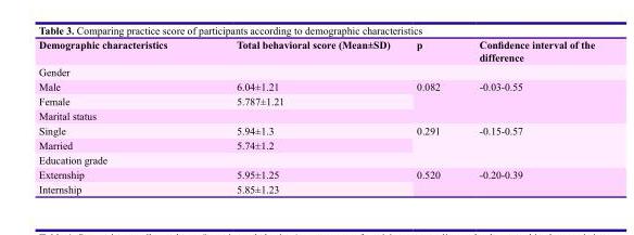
<table><thead><tr><td>Demographic characteristics</td><td>Total behavioral score (Mean±SD)</td><td>p</td><td>Confidence interval of the difference</td></tr></thead><tbody><tr><td colspan="4">Gender</td></tr><tr><td>Male</td><td>6.04±1.21</td><td rowspan="2">0.082</td><td rowspan="2">-0.03-0.55</td></tr><tr><td>Female</td><td>5.787±1.21</td></tr><tr><td colspan="4">Marital status</td></tr><tr><td>Single</td><td>5.94±1.3</td><td rowspan="2">0.291</td><td rowspan="2">-0.15-0.57</td></tr><tr><td>Married</td><td>5.74±1.2</td></tr><tr><td colspan="4">Education grade</td></tr><tr><td>Externship</td><td>5.95±1.25</td><td rowspan="2">0.520</td><td rowspan="2">-0.20-0.39</td></tr><tr><td>Internship</td><td>5.85±1.23</td></tr></tbody></table>